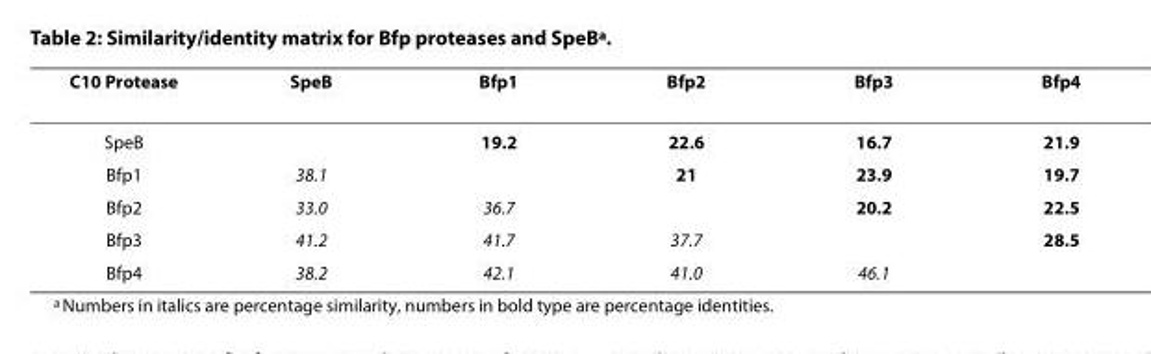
<table><thead><tr><td>C10 Protease</td><td>SpeB</td><td>Bfp1</td><td>Bfp2</td><td>Bfp3</td><td>Bfp4</td></tr></thead><tbody><tr><td>SpeB</td><td></td><td>19.2</td><td>22.6</td><td>16.7</td><td>21.9</td></tr><tr><td>Bfp1</td><td>38.1</td><td></td><td>21</td><td>23.9</td><td>19.7</td></tr><tr><td>Bfp2</td><td>33.0</td><td>36.7</td><td></td><td>20.2</td><td>22.5</td></tr><tr><td>Bfp3</td><td>41.2</td><td>41.7</td><td>37.7</td><td></td><td>28.5</td></tr><tr><td>Bfp4</td><td>38.2</td><td>42.1</td><td>41.0</td><td>46.1</td><td></td></tr></tbody></table>